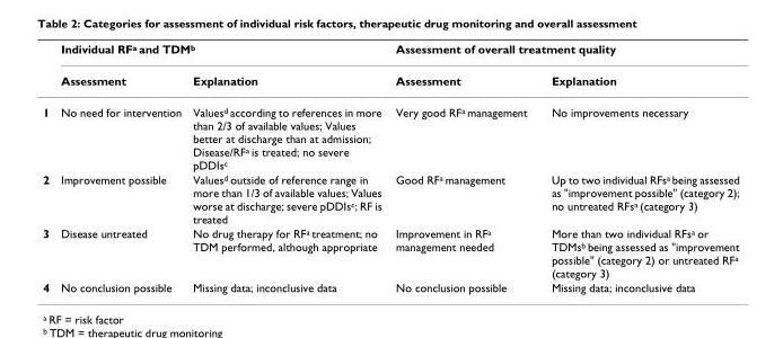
<table><thead><tr><td rowspan="2"></td><td colspan="2">Individual RFa and TDMb</td><td colspan="2">Assessment of overall treatment quality</td></tr><tr><td>Assessment</td><td>Explanation</td><td>Assessment</td><td>Explanation</td></tr></thead><tbody><tr><td>1</td><td>No need for intervention</td><td>Values<sup>d</sup> according to references in more than 2/3 of available values; Values better at discharge than at admission; Disease/RF<sup>a</sup> is treated; no severe pDDIs<sup>c</sup></td><td>Very good RF<sup>a</sup> management</td><td>No improvements necessary</td></tr><tr><td>2</td><td>Improvement possible</td><td>Values<sup>d</sup> outside of reference range in more than 1/3 of available values; Values worse at discharge; severe pDDIs<sup>c</sup>; RF is treated</td><td>Good RF<sup>a</sup> management</td><td>Up to two individual RFs<sup>a</sup> being assessed as &quot;improvement possible&quot; (category 2); no untreated RFs<sup>a</sup> (category 3)</td></tr><tr><td>3</td><td>Disease untreated</td><td>No drug therapy for RF<sup>a</sup> treatment; no TDM performed, although appropriate</td><td>Improvement in RF<sup>a</sup> management needed</td><td>More than two individual RFs<sup>a</sup> or TDMs<sup>b</sup> being assessed as &quot;improvement possible&quot; (category 2) or untreated RF<sup>a</sup> (category 3)</td></tr><tr><td>4</td><td>No conclusion possible</td><td>Missing data; inconclusive data</td><td>No conclusion possible</td><td>Missing data; inconclusive data</td></tr></tbody></table>